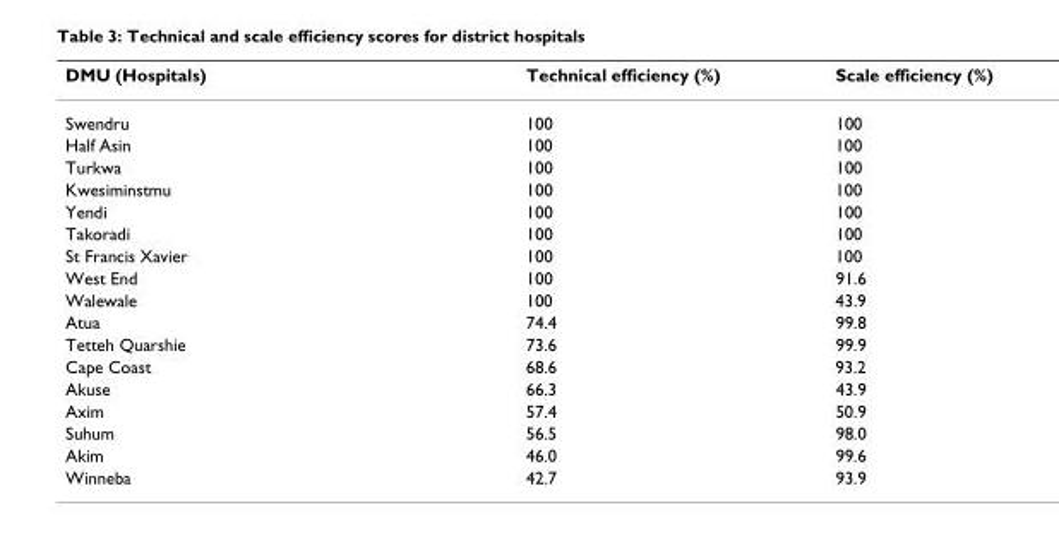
<table><thead><tr><td>DMU (Hospitals)</td><td>Technical efficiency (%)</td><td>Scale efficiency (%)</td></tr></thead><tbody><tr><td>Swendru</td><td>100</td><td>100</td></tr><tr><td>Half Asin</td><td>100</td><td>100</td></tr><tr><td>Turkwa</td><td>100</td><td>100</td></tr><tr><td>Kwesiminstmu</td><td>100</td><td>100</td></tr><tr><td>Yendi</td><td>100</td><td>100</td></tr><tr><td>Takoradi</td><td>100</td><td>100</td></tr><tr><td>St Francis Xavier</td><td>100</td><td>100</td></tr><tr><td>West End</td><td>100</td><td>91.6</td></tr><tr><td>Walewale</td><td>100</td><td>43.9</td></tr><tr><td>Atua</td><td>74.4</td><td>99.8</td></tr><tr><td>Tetteh Quarshie</td><td>73.6</td><td>99.9</td></tr><tr><td>Cape Coast</td><td>68.6</td><td>93.2</td></tr><tr><td>Akuse</td><td>66.3</td><td>43.9</td></tr><tr><td>Axim</td><td>57.4</td><td>50.9</td></tr><tr><td>Suhum</td><td>56.5</td><td>98.0</td></tr><tr><td>Akim</td><td>46.0</td><td>99.6</td></tr><tr><td>Winneba</td><td>42.7</td><td>93.9</td></tr></tbody></table>